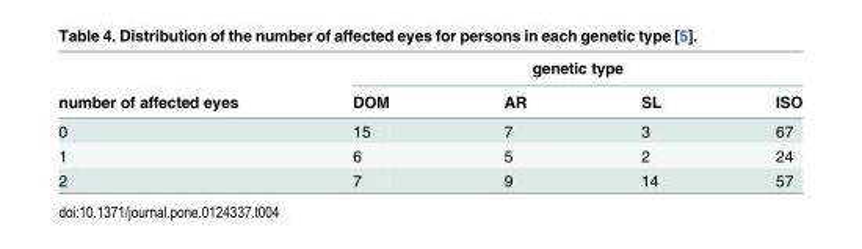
<table><thead><tr><td rowspan="2">number of affected eyes</td><td colspan="4">genetic type</td></tr><tr><td>DOM</td><td>AR</td><td>SL</td><td>ISO</td></tr></thead><tbody><tr><td>0</td><td>15</td><td>7</td><td>3</td><td>67</td></tr><tr><td>1</td><td>6</td><td>5</td><td>2</td><td>24</td></tr><tr><td>2</td><td>7</td><td>9</td><td>14</td><td>57</td></tr></tbody></table>